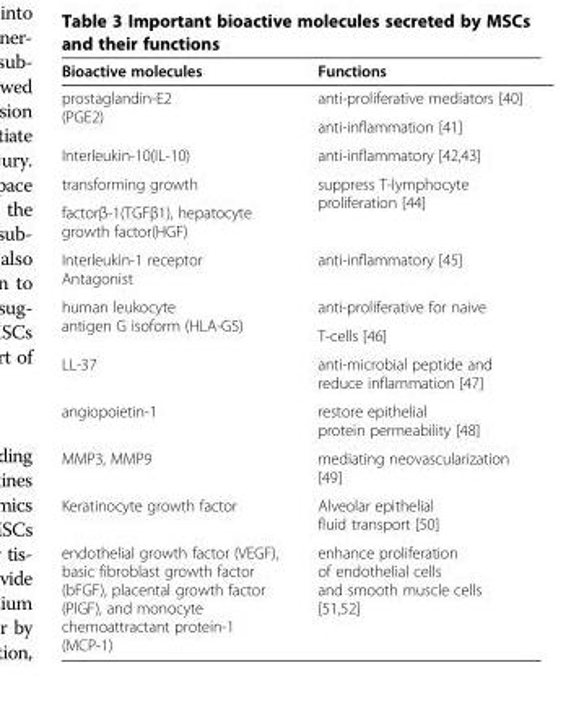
<table><thead><tr><td>Bioactive molecules</td><td>Functions</td></tr></thead><tbody><tr><td rowspan="2">prostaglandin-E2 (PGE2)</td><td>anti-proliferative mediators [40]</td></tr><tr><td>anti-inflammation [41]</td></tr><tr><td>Interleukin-10(IL-10)</td><td>anti-inflammatory [42,43]</td></tr><tr><td>transforming growth</td><td rowspan="2">suppress T-lymphocyte proliferation [44]</td></tr><tr><td>factorβ-1(TGFβ1), hepatocyte growth factor(HGF)</td></tr><tr><td>Interleukin-1 receptor Antagonist</td><td>anti-inflammatory [45]</td></tr><tr><td rowspan="2">human leukocyte antigen G isoform (HLA-G5)</td><td>anti-proliferative for naive</td></tr><tr><td>T-cells [46]</td></tr><tr><td>LL-37</td><td>anti-microbial peptide and reduce inflammation [47]</td></tr><tr><td>angiopoietin-1</td><td>restore epithelial protein permeability [48]</td></tr><tr><td>MMP3, MMP9</td><td>mediating neovascularization [49]</td></tr><tr><td>Keratinocyte growth factor</td><td>Alveolar epithelial fluid transport [50]</td></tr><tr><td>endothelial growth factor (VEGF), basic fibroblast growth factor (bFGF), placental growth factor (PlGF), and monocyte chemoattractant protein-1 (MCP-1)</td><td>enhance proliferation of endothelial cells and smooth muscle cells [51,52]</td></tr></tbody></table>